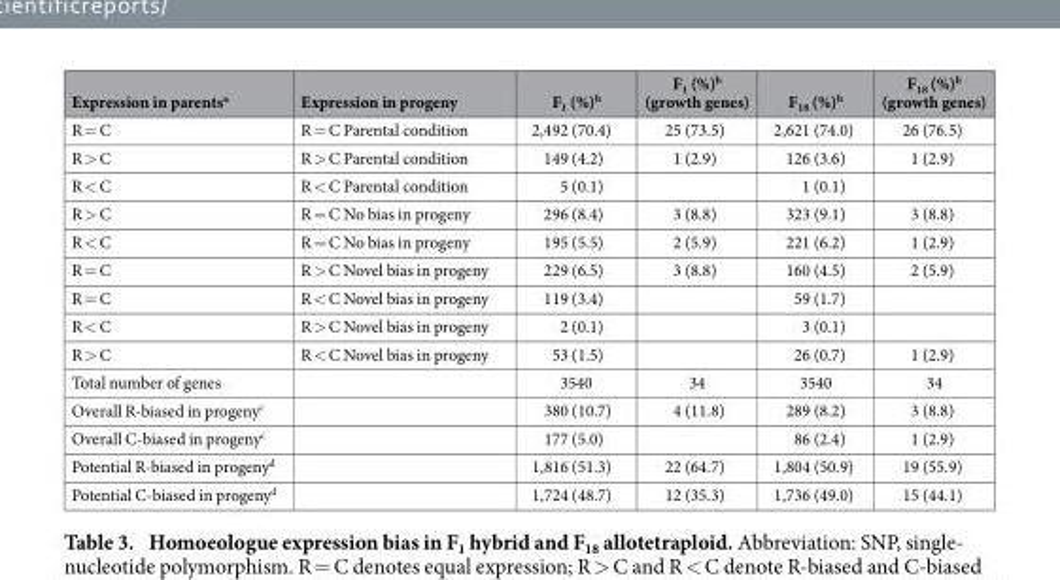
<table><thead><tr><td>Expression in parents<sup>a</sup></td><td>Expression in progeny</td><td>F<sub>1</sub> (%)<sup>b</sup></td><td>F<sub>1</sub> (%)<sup>b</sup> (growth genes)</td><td>F<sub>18</sub> (%)<sup>b</sup></td><td>F<sub>18</sub> (%)<sup>b</sup> (growth genes)</td></tr></thead><tbody><tr><td>R = C</td><td>R = C Parental condition</td><td>2,492 (70.4)</td><td>25 (73.5)</td><td>2,621 (74.0)</td><td>26 (76.5)</td></tr><tr><td>R &gt; C</td><td>R &gt; C Parental condition</td><td>149 (4.2)</td><td>1 (2.9)</td><td>126 (3.6)</td><td>1 (2.9)</td></tr><tr><td>R &lt; C</td><td>R &lt; C Parental condition</td><td>5 (0.1)</td><td></td><td>1 (0.1)</td><td></td></tr><tr><td>R &gt; C</td><td>R = C No bias in progeny</td><td>296 (8.4)</td><td>3 (8.8)</td><td>323 (9.1)</td><td>3 (8.8)</td></tr><tr><td>R &lt; C</td><td>R = C No bias in progeny</td><td>195 (5.5)</td><td>2 (5.9)</td><td>221 (6.2)</td><td>1 (2.9)</td></tr><tr><td>R = C</td><td>R &gt; C Novel bias in progeny</td><td>229 (6.5)</td><td>3 (8.8)</td><td>160 (4.5)</td><td>2 (5.9)</td></tr><tr><td>R = C</td><td>R &lt; C Novel bias in progeny</td><td>119 (3.4)</td><td></td><td>59 (1.7)</td><td></td></tr><tr><td>R &lt; C</td><td>R &gt; C Novel bias in progeny</td><td>2 (0.1)</td><td></td><td>3 (0.1)</td><td></td></tr><tr><td>R &gt; C</td><td>R &lt; C Novel bias in progeny</td><td>53 (1.5)</td><td></td><td>26 (0.7)</td><td>1 (2.9)</td></tr><tr><td>Total number of genes</td><td></td><td>3540</td><td>34</td><td>3540</td><td>34</td></tr><tr><td>Overall R-biased in progeny<sup>c</sup></td><td></td><td>380 (10.7)</td><td>4 (11.8)</td><td>289 (8.2)</td><td>3 (8.8)</td></tr><tr><td>Overall C-biased in progeny<sup>c</sup></td><td></td><td>177 (5.0)</td><td></td><td>86 (2.4)</td><td>1 (2.9)</td></tr><tr><td>Potential R-biased in progeny<sup>d</sup></td><td></td><td>1,816 (51.3)</td><td>22 (64.7)</td><td>1,804 (50.9)</td><td>19 (55.9)</td></tr><tr><td>Potential C-biased in progeny<sup>d</sup></td><td></td><td>1,724 (48.7)</td><td>12 (35.3)</td><td>1,736 (49.0)</td><td>15 (44.1)</td></tr></tbody></table>